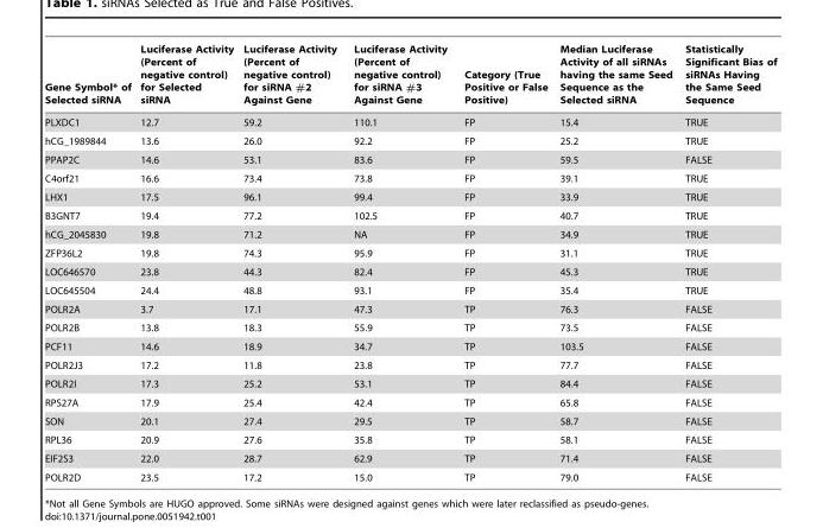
<table><thead><tr><td>Gene Symbol* of Selected siRNA</td><td>Luciferase Activity (Percent of negative control) for Selected siRNA</td><td>Luciferase Activity (Percent of negative control) for siRNA #2 Against Gene</td><td>Luciferase Activity (Percent of negative control) for siRNA #3 Against Gene</td><td>Category (True Positive or False Positive)</td><td>Median Luciferase Activity of all siRNAs having the same Seed Sequence as the Selected siRNA</td><td>Statistically Significant Bias of siRNAs Having the Same Seed Sequence</td></tr></thead><tbody><tr><td>PLXDC1</td><td>12.7</td><td>59.2</td><td>110.1</td><td>FP</td><td>15.4</td><td>TRUE</td></tr><tr><td>hCG_1989844</td><td>13.6</td><td>26.0</td><td>92.2</td><td>FP</td><td>25.2</td><td>TRUE</td></tr><tr><td>PPAP2C</td><td>14.6</td><td>53.1</td><td>83.6</td><td>FP</td><td>59.5</td><td>FALSE</td></tr><tr><td>C4orf21</td><td>16.6</td><td>73.4</td><td>73.8</td><td>FP</td><td>39.1</td><td>TRUE</td></tr><tr><td>LHX1</td><td>17.5</td><td>96.1</td><td>99.4</td><td>FP</td><td>33.9</td><td>TRUE</td></tr><tr><td>B3GNT7</td><td>19.4</td><td>77.2</td><td>102.5</td><td>FP</td><td>40.7</td><td>TRUE</td></tr><tr><td>hCG_2045830</td><td>19.8</td><td>71.2</td><td>NA</td><td>FP</td><td>34.9</td><td>TRUE</td></tr><tr><td>ZFP36L2</td><td>19.8</td><td>74.3</td><td>95.9</td><td>FP</td><td>31.1</td><td>TRUE</td></tr><tr><td>LOC646570</td><td>23.8</td><td>44.3</td><td>82.4</td><td>FP</td><td>45.3</td><td>TRUE</td></tr><tr><td>LOC645504</td><td>24.4</td><td>48.8</td><td>93.1</td><td>FP</td><td>35.4</td><td>TRUE</td></tr><tr><td>POLR2A</td><td>3.7</td><td>17.1</td><td>47.3</td><td>TP</td><td>76.3</td><td>FALSE</td></tr><tr><td>POLR2B</td><td>13.8</td><td>18.3</td><td>55.9</td><td>TP</td><td>73.5</td><td>FALSE</td></tr><tr><td>PCF11</td><td>14.6</td><td>18.9</td><td>34.7</td><td>TP</td><td>103.5</td><td>FALSE</td></tr><tr><td>POLR2J3</td><td>17.2</td><td>11.8</td><td>23.8</td><td>TP</td><td>77.7</td><td>FALSE</td></tr><tr><td>POLR2I</td><td>17.3</td><td>25.2</td><td>53.1</td><td>TP</td><td>84.4</td><td>FALSE</td></tr><tr><td>RPS27A</td><td>17.9</td><td>25.4</td><td>42.4</td><td>TP</td><td>65.8</td><td>FALSE</td></tr><tr><td>SON</td><td>20.1</td><td>27.4</td><td>29.5</td><td>TP</td><td>58.7</td><td>FALSE</td></tr><tr><td>RPL36</td><td>20.9</td><td>27.6</td><td>35.8</td><td>TP</td><td>58.1</td><td>FALSE</td></tr><tr><td>EIF2S3</td><td>22.0</td><td>28.7</td><td>62.9</td><td>TP</td><td>71.4</td><td>FALSE</td></tr><tr><td>POLR2D</td><td>23.5</td><td>17.2</td><td>15.0</td><td>TP</td><td>79.0</td><td>FALSE</td></tr></tbody></table>